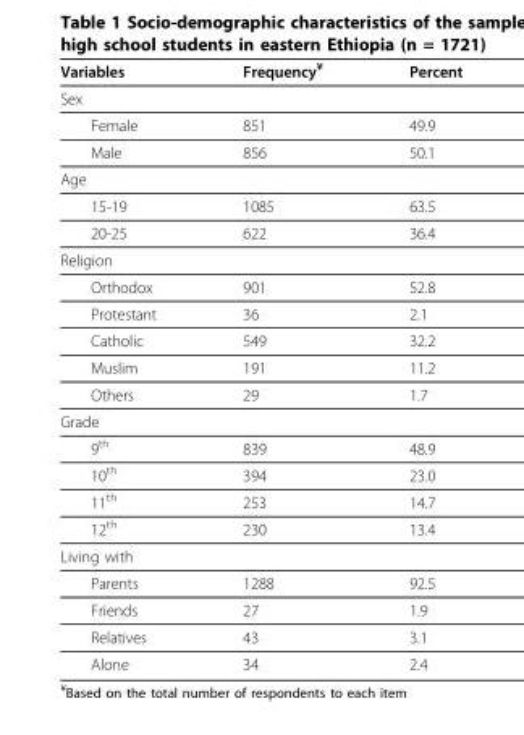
<table><thead><tr><td>Variables</td><td>Frequency<sup>¥</sup></td><td>Percent</td></tr></thead><tbody><tr><td colspan="3">Sex</td></tr><tr><td>Female</td><td>851</td><td>49.9</td></tr><tr><td>Male</td><td>856</td><td>50.1</td></tr><tr><td colspan="3">Age</td></tr><tr><td>15-19</td><td>1085</td><td>63.5</td></tr><tr><td>20-25</td><td>622</td><td>36.4</td></tr><tr><td colspan="3">Religion</td></tr><tr><td>Orthodox</td><td>901</td><td>52.8</td></tr><tr><td>Protestant</td><td>36</td><td>2.1</td></tr><tr><td>Catholic</td><td>549</td><td>32.2</td></tr><tr><td>Muslim</td><td>191</td><td>11.2</td></tr><tr><td>Others</td><td>29</td><td>1.7</td></tr><tr><td colspan="3">Grade</td></tr><tr><td>9<sup>th</sup></td><td>839</td><td>48.9</td></tr><tr><td>10<sup>th</sup></td><td>394</td><td>23.0</td></tr><tr><td>11<sup>th</sup></td><td>253</td><td>14.7</td></tr><tr><td>12<sup>th</sup></td><td>230</td><td>13.4</td></tr><tr><td colspan="3">Living with</td></tr><tr><td>Parents</td><td>1288</td><td>92.5</td></tr><tr><td>Friends</td><td>27</td><td>1.9</td></tr><tr><td>Relatives</td><td>43</td><td>3.1</td></tr><tr><td>Alone</td><td>34</td><td>2.4</td></tr></tbody></table>